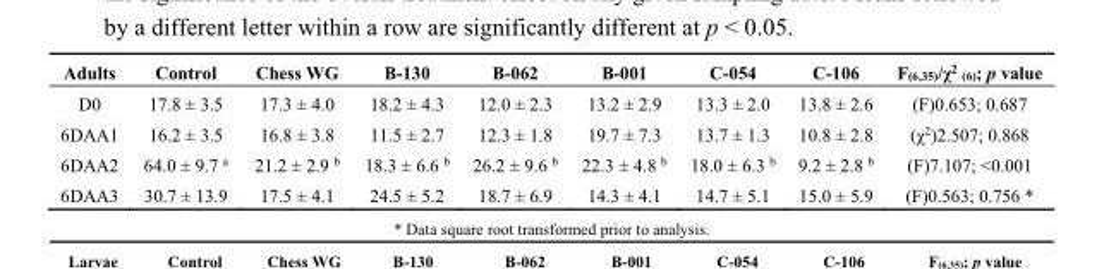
<table><thead><tr><td>Adults</td><td>Control</td><td>Chess WG</td><td>B-130</td><td>B-062</td><td>B-001</td><td>C-054</td><td>C-106</td><td>F<sub>(6,35)</sub>/χ<sup>2</sup> <sub>(6)</sub>; p value</td></tr></thead><tbody><tr><td>D0</td><td>17.8 ± 3.5</td><td>17.3 ± 4.0</td><td>18.2 ± 4.3</td><td>12.0 ± 2.3</td><td>13.2 ± 2.9</td><td>13.3 ± 2.0</td><td>13.8 ± 2.6</td><td>(F)0.653; 0.687</td></tr><tr><td>6DAA1</td><td>16.2 ± 3.5</td><td>16.8 ± 3.8</td><td>11.5 ± 2.7</td><td>12.3 ± 1.8</td><td>19.7 ± 7.3</td><td>13.7 ± 1.3</td><td>10.8 ± 2.8</td><td>(χ<sup>2</sup>)2.507; 0.868</td></tr><tr><td>6DAA2</td><td>64.0 ± 9.7 <sup>a</sup></td><td>21.2 ± 2.9 <sup>b</sup></td><td>18.3 ± 6.6 <sup>b</sup></td><td>26.2 ± 9.6 <sup>b</sup></td><td>22.3 ± 4.8 <sup>b</sup></td><td>18.0 ± 6.3 <sup>b</sup></td><td>9.2 ± 2.8 <sup>b</sup></td><td>(F)7.107; &lt;0.001</td></tr><tr><td>6DAA3</td><td>30.7 ± 13.9</td><td>17.5 ± 4.1</td><td>24.5 ± 5.2</td><td>18.7 ± 6.9</td><td>14.3 ± 4.1</td><td>14.7 ± 5.1</td><td>15.0 ± 5.9</td><td>(F)0.563; 0.756 *</td></tr></tbody></table>